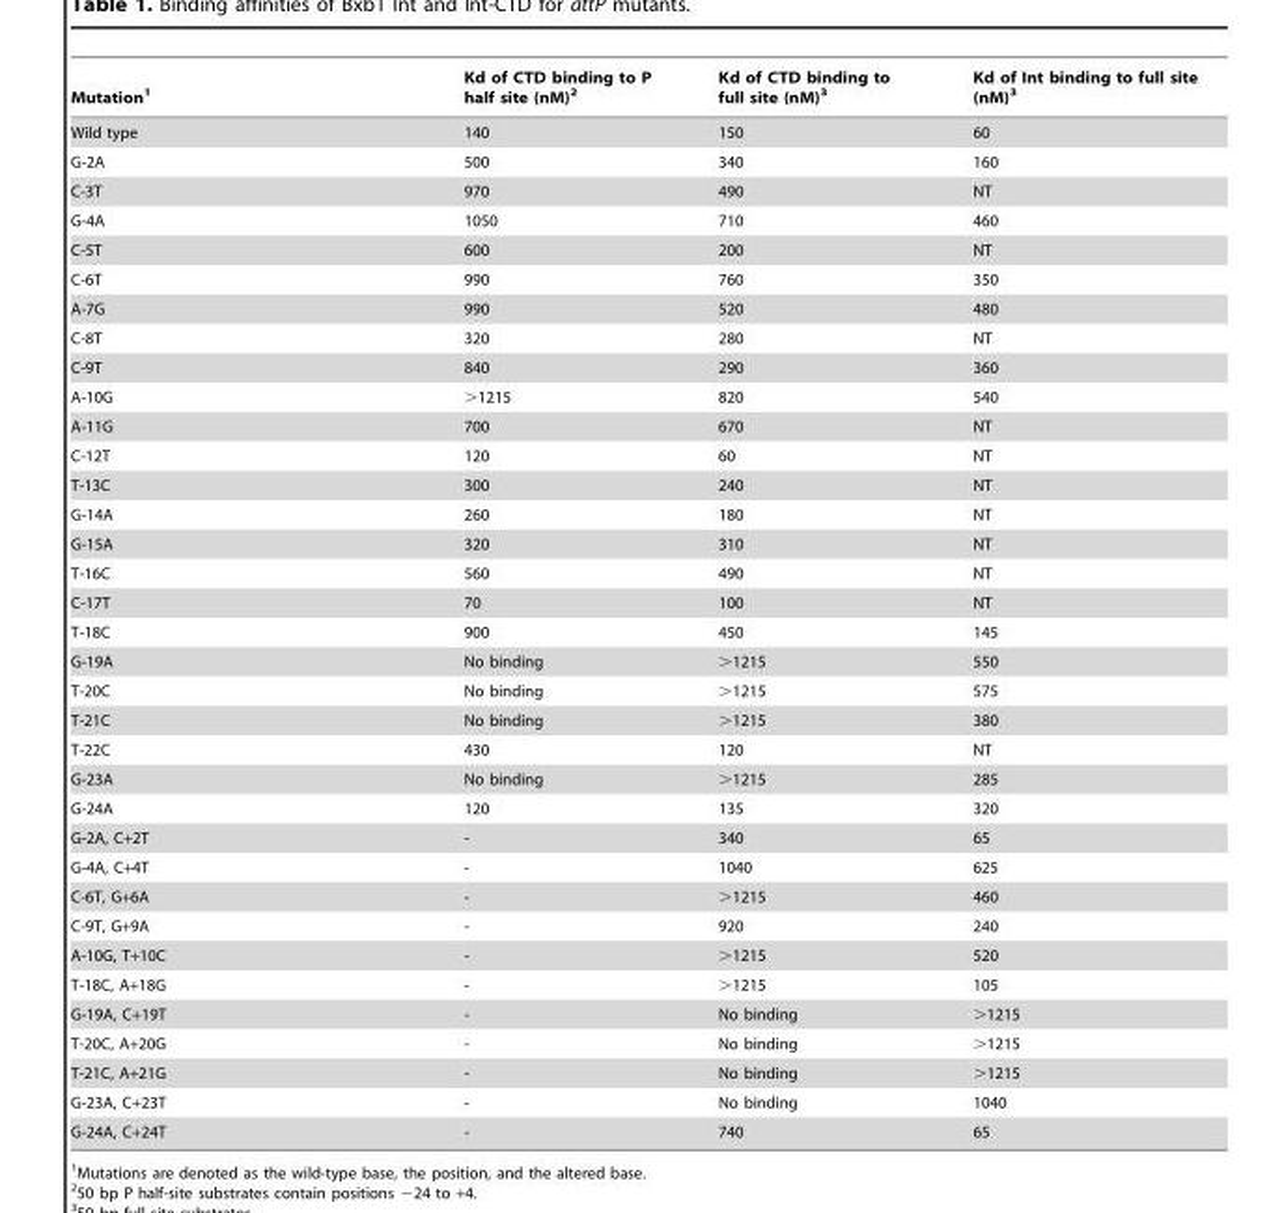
<table><thead><tr><td>Mutation<sup>1</sup></td><td>Kd of CTD binding to P half site (nM)<sup>2</sup></td><td>Kd of CTD binding to full site (nM)<sup>3</sup></td><td>Kd of Int binding to full site (nM)<sup>3</sup></td></tr></thead><tbody><tr><td>Wild type</td><td>140</td><td>150</td><td>60</td></tr><tr><td>G-2A</td><td>500</td><td>340</td><td>160</td></tr><tr><td>C-3T</td><td>970</td><td>490</td><td>NT</td></tr><tr><td>G-4A</td><td>1050</td><td>710</td><td>460</td></tr><tr><td>C-5T</td><td>600</td><td>200</td><td>NT</td></tr><tr><td>C-6T</td><td>990</td><td>760</td><td>350</td></tr><tr><td>A-7G</td><td>990</td><td>520</td><td>480</td></tr><tr><td>C-8T</td><td>320</td><td>280</td><td>NT</td></tr><tr><td>C-9T</td><td>840</td><td>290</td><td>360</td></tr><tr><td>A-10G</td><td>&gt;1215</td><td>820</td><td>540</td></tr><tr><td>A-11G</td><td>700</td><td>670</td><td>NT</td></tr><tr><td>C-12T</td><td>120</td><td>60</td><td>NT</td></tr><tr><td>T-13C</td><td>300</td><td>240</td><td>NT</td></tr><tr><td>G-14A</td><td>260</td><td>180</td><td>NT</td></tr><tr><td>G-15A</td><td>320</td><td>310</td><td>NT</td></tr><tr><td>T-16C</td><td>560</td><td>490</td><td>NT</td></tr><tr><td>C-17T</td><td>70</td><td>100</td><td>NT</td></tr><tr><td>T-18C</td><td>900</td><td>450</td><td>145</td></tr><tr><td>G-19A</td><td>No binding</td><td>&gt;1215</td><td>550</td></tr><tr><td>T-20C</td><td>No binding</td><td>&gt;1215</td><td>575</td></tr><tr><td>T-21C</td><td>No binding</td><td>&gt;1215</td><td>380</td></tr><tr><td>T-22C</td><td>430</td><td>120</td><td>NT</td></tr><tr><td>G-23A</td><td>No binding</td><td>&gt;1215</td><td>285</td></tr><tr><td>G-24A</td><td>120</td><td>135</td><td>320</td></tr><tr><td>G-2A, C+2T</td><td>-</td><td>340</td><td>65</td></tr><tr><td>G-4A, C+4T</td><td>-</td><td>1040</td><td>625</td></tr><tr><td>C-6T, G+6A</td><td>-</td><td>&gt;1215</td><td>460</td></tr><tr><td>C-9T, G+9A</td><td>-</td><td>920</td><td>240</td></tr><tr><td>A-10G, T+10C</td><td>-</td><td>&gt;1215</td><td>520</td></tr><tr><td>T-18C, A+18G</td><td>-</td><td>&gt;1215</td><td>105</td></tr><tr><td>G-19A, C+19T</td><td>-</td><td>No binding</td><td>&gt;1215</td></tr><tr><td>T-20C, A+20G</td><td>-</td><td>No binding</td><td>&gt;1215</td></tr><tr><td>T-21C, A+21G</td><td>-</td><td>No binding</td><td>&gt;1215</td></tr><tr><td>G-23A, C+23T</td><td>-</td><td>No binding</td><td>1040</td></tr><tr><td>G-24A, C+24T</td><td>-</td><td>740</td><td>65</td></tr></tbody></table>